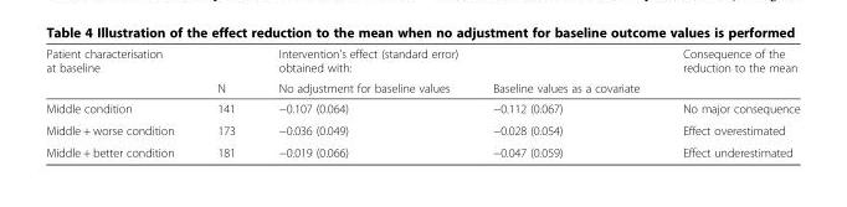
<table><thead><tr><td rowspan="2">Patient characterisation at baseline</td><td rowspan="2">N</td><td colspan="2">Intervention’s effect (standard error) obtained with:</td><td rowspan="2">Consequence of the reduction to the mean</td></tr><tr><td>No adjustment for baseline values</td><td>Baseline values as a covariate</td></tr></thead><tbody><tr><td>Middle condition</td><td>141</td><td>−0.107 (0.064)</td><td>−0.112 (0.067)</td><td>No major consequence</td></tr><tr><td>Middle + worse condition</td><td>173</td><td>−0.036 (0.049)</td><td>−0.028 (0.054)</td><td>Effect overestimated</td></tr><tr><td>Middle + better condition</td><td>181</td><td>−0.019 (0.066)</td><td>−0.047 (0.059)</td><td>Effect underestimated</td></tr></tbody></table>